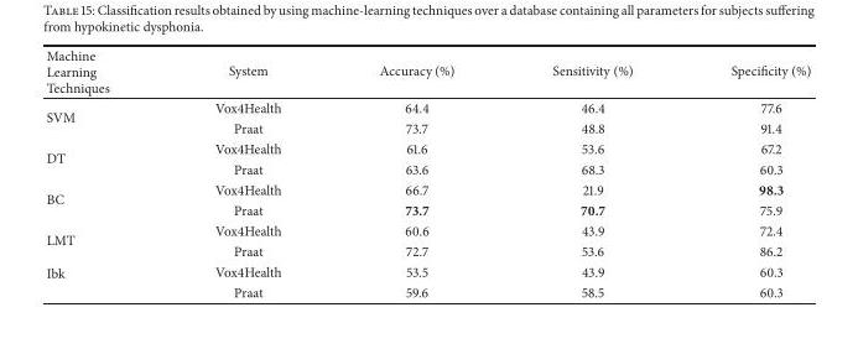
<table><thead><tr><td>Machine Learning Techniques</td><td>System</td><td>Accuracy (%)</td><td>Sensitivity (%)</td><td>Specificity (%)</td></tr></thead><tbody><tr><td rowspan="2">SVM</td><td>Vox4Health</td><td>64.4</td><td>46.4</td><td>77.6</td></tr><tr><td>Praat</td><td>73.7</td><td>48.8</td><td>91.4</td></tr><tr><td rowspan="2">DT</td><td>Vox4Health</td><td>61.6</td><td>53.6</td><td>67.2</td></tr><tr><td>Praat</td><td>63.6</td><td>68.3</td><td>60.3</td></tr><tr><td rowspan="2">BC</td><td>Vox4Health</td><td>66.7</td><td>21.9</td><td>98.3</td></tr><tr><td>Praat</td><td>73.7</td><td>70.7</td><td>75.9</td></tr><tr><td rowspan="2">LMT</td><td>Vox4Health</td><td>60.6</td><td>43.9</td><td>72.4</td></tr><tr><td>Praat</td><td>72.7</td><td>53.6</td><td>86.2</td></tr><tr><td rowspan="2">Ibk</td><td>Vox4Health</td><td>53.5</td><td>43.9</td><td>60.3</td></tr><tr><td>Praat</td><td>59.6</td><td>58.5</td><td>60.3</td></tr></tbody></table>